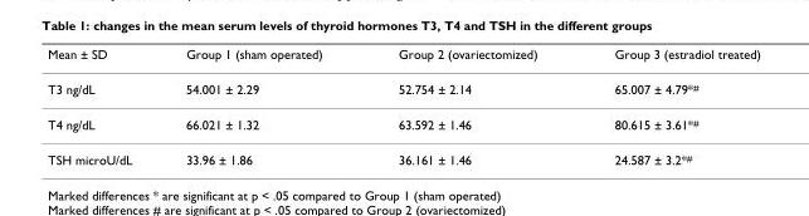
<table><thead><tr><td>Mean ± SD</td><td>Group 1 (sham operated)</td><td>Group 2 (ovariectomized)</td><td>Group 3 (estradiol treated)</td></tr></thead><tbody><tr><td>T3 ng/dL</td><td>54.001 ± 2.29</td><td>52.754 ± 2.14</td><td>65.007 ± 4.79*<sup>#</sup></td></tr><tr><td>T4 ng/dL</td><td>66.021 ± 1.32</td><td>63.592 ± 1.46</td><td>80.615 ± 3.61*<sup>#</sup></td></tr><tr><td>TSH microU/dL</td><td>33.96 ± 1.86</td><td>36.161 ± 1.46</td><td>24.587 ± 3.2*<sup>#</sup></td></tr></tbody></table>